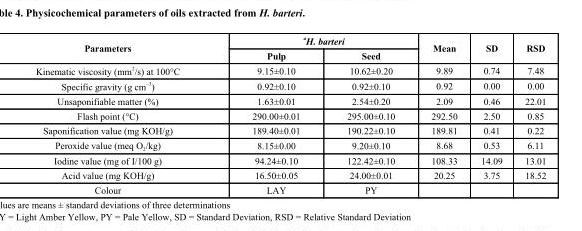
<table><thead><tr><td rowspan="2">Parameters</td><td colspan="2"><sup>a</sup>H. barteri</td><td rowspan="2">Mean</td><td rowspan="2">SD</td><td rowspan="2">RSD</td></tr><tr><td>Pulp</td><td>Seed</td></tr></thead><tbody><tr><td>Kinematic viscosity (mm <sup>2</sup>/s) at 100°C</td><td>9.15±0.10</td><td>10.62±0.20</td><td>9.89</td><td>0.74</td><td>7.48</td></tr><tr><td>Specific gravity (g cm <sup>–3</sup>)</td><td>0.92±0.10</td><td>0.92±0.10</td><td>0.92</td><td>0.00</td><td>0.00</td></tr><tr><td>Unsaponifiable matter (%)</td><td>1.63±0.01</td><td>2.54±0.20</td><td>2.09</td><td>0.46</td><td>22.01</td></tr><tr><td>Flash point (°C)</td><td>290.00±0.01</td><td>295.00±0.10</td><td>292.50</td><td>2.50</td><td>0.85</td></tr><tr><td>Saponification value (mg KOH/g)</td><td>189.40±0.01</td><td>190.22±0.10</td><td>189.81</td><td>0.41</td><td>0.22</td></tr><tr><td>Peroxide value (meq O<sub>2</sub>/kg)</td><td>8.15±0.00</td><td>9.20±0.10</td><td>8.68</td><td>0.53</td><td>6.11</td></tr><tr><td>Iodine value (mg of I/100 g)</td><td>94.24±0.10</td><td>122.42±0.10</td><td>108.33</td><td>14.09</td><td>13.01</td></tr><tr><td>Acid value (mg KOH/g)</td><td>16.50±0.05</td><td>24.00±0.01</td><td>20.25</td><td>3.75</td><td>18.52</td></tr><tr><td>Colour</td><td>LAY</td><td>PY</td><td></td><td></td><td></td></tr></tbody></table>